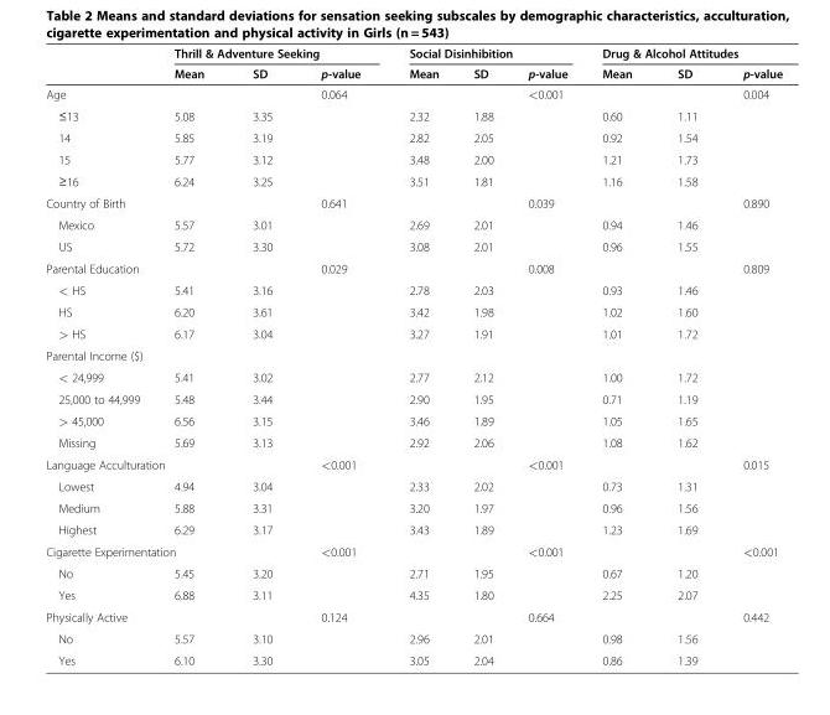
<table><thead><tr><td rowspan="2"></td><td colspan="3">Thrill &amp; Adventure Seeking</td><td colspan="3">Social Disinhibition</td><td colspan="3">Drug &amp; Alcohol Attitudes</td></tr><tr><td>Mean</td><td>SD</td><td>p-value</td><td>Mean</td><td>SD</td><td>p-value</td><td>Mean</td><td>SD</td><td>p-value</td></tr></thead><tbody><tr><td>Age</td><td></td><td></td><td>0.064</td><td></td><td></td><td>&lt;0.001</td><td></td><td></td><td>0.004</td></tr><tr><td>≤13</td><td>5.08</td><td>3.35</td><td></td><td>2.32</td><td>1.88</td><td></td><td>0.60</td><td>1.11</td><td></td></tr><tr><td>14</td><td>5.85</td><td>3.19</td><td></td><td>2.82</td><td>2.05</td><td></td><td>0.92</td><td>1.54</td><td></td></tr><tr><td>15</td><td>5.77</td><td>3.12</td><td></td><td>3.48</td><td>2.00</td><td></td><td>1.21</td><td>1.73</td><td></td></tr><tr><td>≥16</td><td>6.24</td><td>3.25</td><td></td><td>3.51</td><td>1.81</td><td></td><td>1.16</td><td>1.58</td><td></td></tr><tr><td>Country of Birth</td><td></td><td></td><td>0.641</td><td></td><td></td><td>0.039</td><td></td><td></td><td>0.890</td></tr><tr><td>Mexico</td><td>5.57</td><td>3.01</td><td></td><td>2.69</td><td>2.01</td><td></td><td>0.94</td><td>1.46</td><td></td></tr><tr><td>US</td><td>5.72</td><td>3.30</td><td></td><td>3.08</td><td>2.01</td><td></td><td>0.96</td><td>1.55</td><td></td></tr><tr><td colspan="2">Parental Education</td><td></td><td>0.029</td><td></td><td></td><td>0.008</td><td></td><td></td><td>0.809</td></tr><tr><td>&lt; HS</td><td>5.41</td><td>3.16</td><td></td><td>2.78</td><td>2.03</td><td></td><td>0.93</td><td>1.46</td><td></td></tr><tr><td>HS</td><td>6.20</td><td>3.61</td><td></td><td>3.42</td><td>1.98</td><td></td><td>1.02</td><td>1.60</td><td></td></tr><tr><td>&gt; HS</td><td>6.17</td><td>3.04</td><td></td><td>3.27</td><td>1.91</td><td></td><td>1.01</td><td>1.72</td><td></td></tr><tr><td colspan="10">Parental Income ($)</td></tr><tr><td>&lt; 24,999</td><td>5.41</td><td>3.02</td><td></td><td>2.77</td><td>2.12</td><td></td><td>1.00</td><td>1.72</td><td></td></tr><tr><td>25,000 to 44,999</td><td>5.48</td><td>3.44</td><td></td><td>2.90</td><td>1.95</td><td></td><td>0.71</td><td>1.19</td><td></td></tr><tr><td>&gt; 45,000</td><td>6.56</td><td>3.15</td><td></td><td>3.46</td><td>1.89</td><td></td><td>1.05</td><td>1.65</td><td></td></tr><tr><td>Missing</td><td>5.69</td><td>3.13</td><td></td><td>2.92</td><td>2.06</td><td></td><td>1.08</td><td>1.62</td><td></td></tr><tr><td colspan="2">Language Acculturation</td><td></td><td>&lt;0.001</td><td></td><td></td><td>&lt;0.001</td><td></td><td></td><td>0.015</td></tr><tr><td>Lowest</td><td>4.94</td><td>3.04</td><td></td><td>2.33</td><td>2.02</td><td></td><td>0.73</td><td>1.31</td><td></td></tr><tr><td>Medium</td><td>5.88</td><td>3.31</td><td></td><td>3.20</td><td>1.97</td><td></td><td>0.96</td><td>1.56</td><td></td></tr><tr><td>Highest</td><td>6.29</td><td>3.17</td><td></td><td>3.43</td><td>1.89</td><td></td><td>1.23</td><td>1.69</td><td></td></tr><tr><td colspan="2">Cigarette Experimentation</td><td></td><td>&lt;0.001</td><td></td><td></td><td>&lt;0.001</td><td></td><td></td><td>&lt;0.001</td></tr><tr><td>No</td><td>5.45</td><td>3.20</td><td></td><td>2.71</td><td>1.95</td><td></td><td>0.67</td><td>1.20</td><td></td></tr><tr><td>Yes</td><td>6.88</td><td>3.11</td><td></td><td>4.35</td><td>1.80</td><td></td><td>2.25</td><td>2.07</td><td></td></tr><tr><td>Physically Active</td><td></td><td></td><td>0.124</td><td></td><td></td><td>0.664</td><td></td><td></td><td>0.442</td></tr><tr><td>No</td><td>5.57</td><td>3.10</td><td></td><td>2.96</td><td>2.01</td><td></td><td>0.98</td><td>1.56</td><td></td></tr><tr><td>Yes</td><td>6.10</td><td>3.30</td><td></td><td>3.05</td><td>2.04</td><td></td><td>0.86</td><td>1.39</td><td></td></tr></tbody></table>